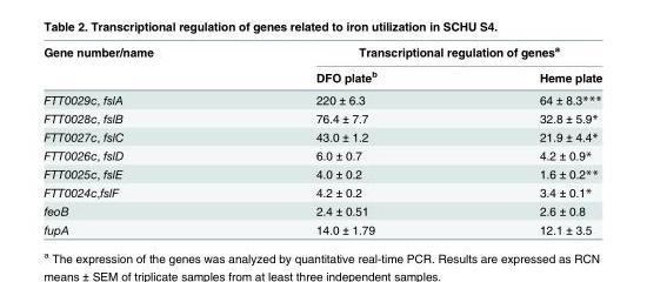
<table><thead><tr><td rowspan="2">Gene number/name</td><td colspan="2">Transcriptional regulation of genes<sup>a</sup></td></tr><tr><td>DFO plate<sup>b</sup></td><td>Heme plate</td></tr></thead><tbody><tr><td>FTT0029c, fslA</td><td>220 ± 6.3</td><td>64 ± 8.3***</td></tr><tr><td>FTT0028c, fslB</td><td>76.4 ± 7.7</td><td>32.8 ± 5.9*</td></tr><tr><td>FTT0027c, fslC</td><td>43.0 ± 1.2</td><td>21.9 ± 4.4*</td></tr><tr><td>FTT0026c, fslD</td><td>6.0 ± 0.7</td><td>4.2 ± 0.9*</td></tr><tr><td>FTT0025c, fslE</td><td>4.0 ± 0.2</td><td>1.6 ± 0.2**</td></tr><tr><td>FTT0024c,fslF</td><td>4.2 ± 0.2</td><td>3.4 ± 0.1*</td></tr><tr><td>feoB</td><td>2.4 ± 0.51</td><td>2.6 ± 0.8</td></tr><tr><td>fupA</td><td>14.0 ± 1.79</td><td>12.1 ± 3.5</td></tr></tbody></table>